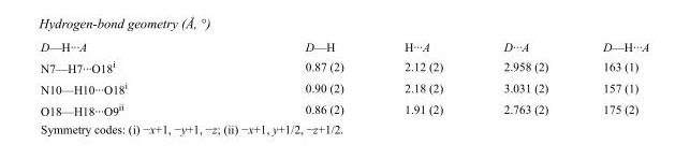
<table><tbody><tr><td>D—H···A</td><td>D—H</td><td>H···A</td><td>D···A</td><td>D—H···A</td></tr><tr><td>N7—H7···O18<sup>i</sup></td><td>0.87 (2)</td><td>2.12 (2)</td><td>2.958 (2)</td><td>163 (1)</td></tr><tr><td>N10—H10···O18<sup>i</sup></td><td>0.90 (2)</td><td>2.18 (2)</td><td>3.031 (2)</td><td>157 (1)</td></tr><tr><td>O18—H18···O9<sup>ii</sup></td><td>0.86 (2)</td><td>1.91 (2)</td><td>2.763 (2)</td><td>175 (2)</td></tr></tbody></table>